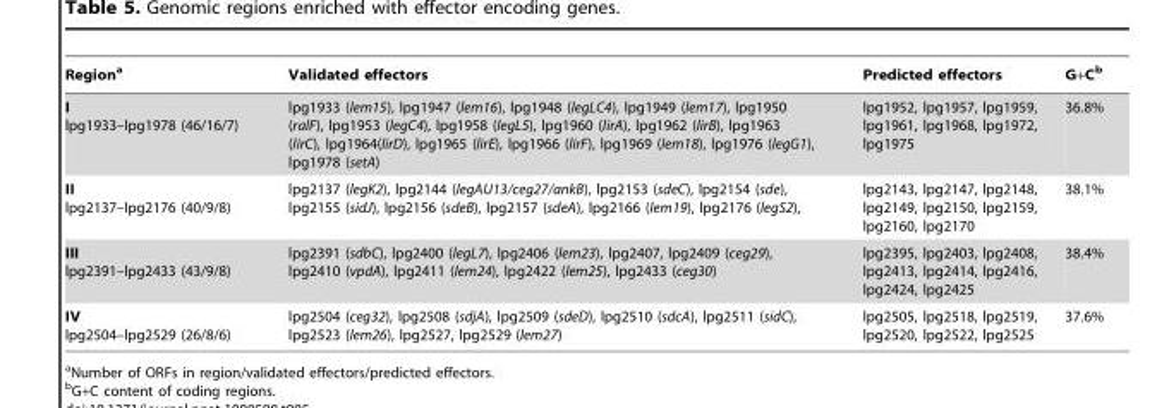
<table><thead><tr><td>Region<sup>a</sup></td><td>Validated effectors</td><td>Predicted effectors</td><td>G+C<sup>b</sup></td></tr></thead><tbody><tr><td>I lpg1933–lpg1978 (46/16/7)</td><td>lpg1933 (lem15), lpg1947 (lem16), lpg1948 (legLC4), lpg1949 (lem17), lpg1950 (ralF), lpg1953 (legC4), lpg1958 (legL5), lpg1960 (lirA), lpg1962 (lirB), lpg1963 (lirC), lpg1964(lirD), lpg1965 (lirE), lpg1966 (lirF), lpg1969 (lem18), lpg1976 (legG1), lpg1978 (setA)</td><td>lpg1952, lpg1957, lpg1959, lpg1961, lpg1968, lpg1972, lpg1975</td><td>36.8%</td></tr><tr><td>II lpg2137–lpg2176 (40/9/8)</td><td>lpg2137 (legK2), lpg2144 (legAU13/ceg27/ankB), lpg2153 (sdeC), lpg2154 (sde), lpg2155 (sidJ), lpg2156 (sdeB), lpg2157 (sdeA), lpg2166 (lem19), lpg2176 (legS2),</td><td>lpg2143, lpg2147, lpg2148, lpg2149, lpg2150, lpg2159, lpg2160, lpg2170</td><td>38.1%</td></tr><tr><td>III lpg2391–lpg2433 (43/9/8)</td><td>lpg2391 (sdbC), lpg2400 (legL7), lpg2406 (lem23), lpg2407, lpg2409 (ceg29), lpg2410 (vpdA), lpg2411 (lem24), lpg2422 (lem25), lpg2433 (ceg30)</td><td>lpg2395, lpg2403, lpg2408, lpg2413, lpg2414, lpg2416, lpg2424, lpg2425</td><td>38.4%</td></tr><tr><td>IV lpg2504–lpg2529 (26/8/6)</td><td>lpg2504 (ceg32), lpg2508 (sdjA), lpg2509 (sdeD), lpg2510 (sdcA), lpg2511 (sidC), lpg2523 (lem26), lpg2527, lpg2529 (lem27)</td><td>lpg2505, lpg2518, lpg2519, lpg2520, lpg2522, lpg2525</td><td>37.6%</td></tr></tbody></table>